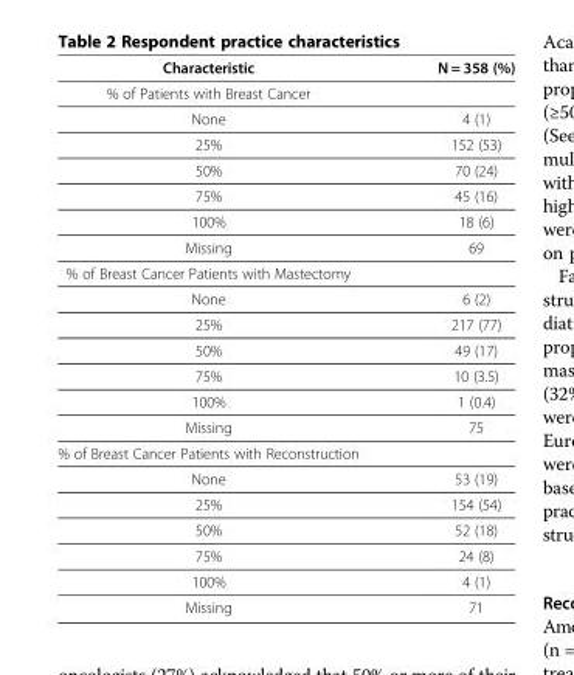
<table><thead><tr><td>Characteristic</td><td>N = 358 (%)</td></tr></thead><tbody><tr><td colspan="2">% of Patients with Breast Cancer</td></tr><tr><td>None</td><td>4 (1)</td></tr><tr><td>25%</td><td>152 (53)</td></tr><tr><td>50%</td><td>70 (24)</td></tr><tr><td>75%</td><td>45 (16)</td></tr><tr><td>100%</td><td>18 (6)</td></tr><tr><td>Missing</td><td>69</td></tr><tr><td colspan="2">% of Breast Cancer Patients with Mastectomy</td></tr><tr><td>None</td><td>6 (2)</td></tr><tr><td>25%</td><td>217 (77)</td></tr><tr><td>50%</td><td>49 (17)</td></tr><tr><td>75%</td><td>10 (3.5)</td></tr><tr><td>100%</td><td>1 (0.4)</td></tr><tr><td>Missing</td><td>75</td></tr><tr><td colspan="2">% of Breast Cancer Patients with Reconstruction</td></tr><tr><td>None</td><td>53 (19)</td></tr><tr><td>25%</td><td>154 (54)</td></tr><tr><td>50%</td><td>52 (18)</td></tr><tr><td>75%</td><td>24 (8)</td></tr><tr><td>100%</td><td>4 (1)</td></tr><tr><td>Missing</td><td>71</td></tr></tbody></table>